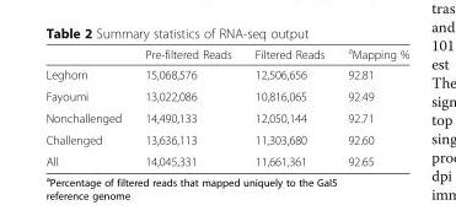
<table><thead><tr><td></td><td>Pre-filtered Reads</td><td>Filtered Reads</td><td><sup>a</sup>Mapping %</td></tr></thead><tbody><tr><td>Leghorn</td><td>15,068,576</td><td>12,506,656</td><td>92.81</td></tr><tr><td>Fayoumi</td><td>13,022,086</td><td>10,816,065</td><td>92.49</td></tr><tr><td>Nonchallenged</td><td>14,490,133</td><td>12,050,144</td><td>92.71</td></tr><tr><td>Challenged</td><td>13,636,113</td><td>11,303,680</td><td>92.60</td></tr><tr><td>All</td><td>14,045,331</td><td>11,661,361</td><td>92.65</td></tr></tbody></table>